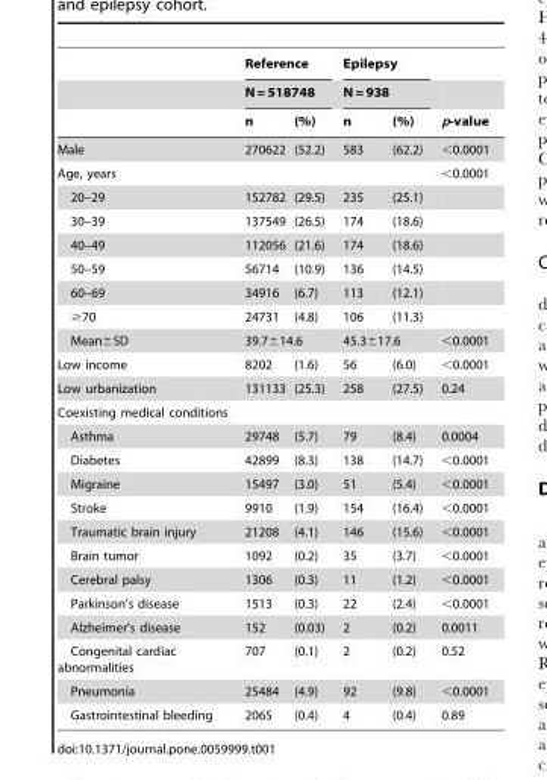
<table><thead><tr><td rowspan="3"></td><td rowspan="2" colspan="2">Reference N = 518748</td><td rowspan="2" colspan="2">Epilepsy N = 938</td><td rowspan="3">p-value</td></tr><tr></tr><tr><td>n</td><td>(%)</td><td>n</td><td>(%)</td></tr></thead><tbody><tr><td>Male</td><td>270622</td><td>(52.2)</td><td>583</td><td>(62.2)</td><td>&lt;0.0001</td></tr><tr><td>Age, years</td><td></td><td></td><td></td><td></td><td>&lt;0.0001</td></tr><tr><td>20–29</td><td>152782</td><td>(29.5)</td><td>235</td><td>(25.1)</td><td></td></tr><tr><td>30–39</td><td>137549</td><td>(26.5)</td><td>174</td><td>(18.6)</td><td></td></tr><tr><td>40–49</td><td>112056</td><td>(21.6)</td><td>174</td><td>(18.6)</td><td></td></tr><tr><td>50–59</td><td>56714</td><td>(10.9)</td><td>136</td><td>(14.5)</td><td></td></tr><tr><td>60–69</td><td>34916</td><td>(6.7)</td><td>113</td><td>(12.1)</td><td></td></tr><tr><td>≥70</td><td>24731</td><td>(4.8)</td><td>106</td><td>(11.3)</td><td></td></tr><tr><td>Mean±SD</td><td colspan="2">39.7±14.6</td><td colspan="2">45.3±17.6</td><td>&lt;0.0001</td></tr><tr><td>Low income</td><td>8202</td><td>(1.6)</td><td>56</td><td>(6.0)</td><td>&lt;0.0001</td></tr><tr><td>Low urbanization</td><td>131133</td><td>(25.3)</td><td>258</td><td>(27.5)</td><td>0.24</td></tr><tr><td colspan="6">Coexisting medical conditions</td></tr><tr><td>Asthma</td><td>29748</td><td>(5.7)</td><td>79</td><td>(8.4)</td><td>0.0004</td></tr><tr><td>Diabetes</td><td>42899</td><td>(8.3)</td><td>138</td><td>(14.7)</td><td>&lt;0.0001</td></tr><tr><td>Migraine</td><td>15497</td><td>(3.0)</td><td>51</td><td>(5.4)</td><td>&lt;0.0001</td></tr><tr><td>Stroke</td><td>9910</td><td>(1.9)</td><td>154</td><td>(16.4)</td><td>&lt;0.0001</td></tr><tr><td>Traumatic brain injury</td><td>21208</td><td>(4.1)</td><td>146</td><td>(15.6)</td><td>&lt;0.0001</td></tr><tr><td>Brain tumor</td><td>1092</td><td>(0.2)</td><td>35</td><td>(3.7)</td><td>&lt;0.0001</td></tr><tr><td>Cerebral palsy</td><td>1306</td><td>(0.3)</td><td>11</td><td>(1.2)</td><td>&lt;0.0001</td></tr><tr><td>Parkinson’s disease</td><td>1513</td><td>(0.3)</td><td>22</td><td>(2.4)</td><td>&lt;0.0001</td></tr><tr><td>Alzheimer’s disease</td><td>152</td><td>(0.03)</td><td>2</td><td>(0.2)</td><td>0.0011</td></tr><tr><td>Congenital cardiac abnormalities</td><td>707</td><td>(0.1)</td><td>2</td><td>(0.2)</td><td>0.52</td></tr><tr><td>Pneumonia</td><td>25484</td><td>(4.9)</td><td>92</td><td>(9.8)</td><td>&lt;0.0001</td></tr><tr><td>Gastrointestinal bleeding</td><td>2065</td><td>(0.4)</td><td>4</td><td>(0.4)</td><td>0.89</td></tr></tbody></table>